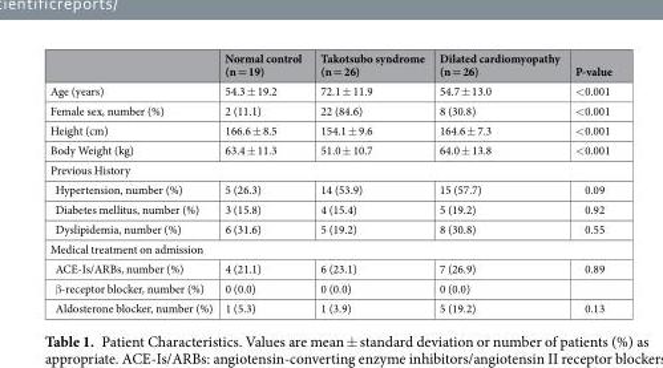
<table><thead><tr><td></td><td>Normal control (n = 19)</td><td>Takotsubo syndrome (n = 26)</td><td>Dilated cardiomyopathy (n = 26)</td><td>P-value</td></tr></thead><tbody><tr><td>Age (years)</td><td>54.3 ± 19.2</td><td>72.1 ± 11.9</td><td>54.7 ± 13.0</td><td>&lt;0.001</td></tr><tr><td>Female sex, number (%)</td><td>2 (11.1)</td><td>22 (84.6)</td><td>8 (30.8)</td><td>&lt;0.001</td></tr><tr><td>Height (cm)</td><td>166.6 ± 8.5</td><td>154.1 ± 9.6</td><td>164.6 ± 7.3</td><td>&lt;0.001</td></tr><tr><td>Body Weight (kg)</td><td>63.4 ± 11.3</td><td>51.0 ± 10.7</td><td>64.0 ± 13.8</td><td>&lt;0.001</td></tr><tr><td colspan="5">Previous History</td></tr><tr><td>Hypertension, number (%)</td><td>5 (26.3)</td><td>14 (53.9)</td><td>15 (57.7)</td><td>0.09</td></tr><tr><td>Diabetes mellitus, number (%)</td><td>3 (15.8)</td><td>4 (15.4)</td><td>5 (19.2)</td><td>0.92</td></tr><tr><td>Dyslipidemia, number (%)</td><td>6 (31.6)</td><td>5 (19.2)</td><td>8 (30.8)</td><td>0.55</td></tr><tr><td colspan="5">Medical treatment on admission</td></tr><tr><td>ACE-Is/ARBs, number (%)</td><td>4 (21.1)</td><td>6 (23.1)</td><td>7 (26.9)</td><td>0.89</td></tr><tr><td>β-receptor blocker, number (%)</td><td>0 (0.0)</td><td>0 (0.0)</td><td>0 (0.0)</td><td></td></tr><tr><td>Aldosterone blocker, number (%)</td><td>1 (5.3)</td><td>1 (3.9)</td><td>5 (19.2)</td><td>0.13</td></tr></tbody></table>